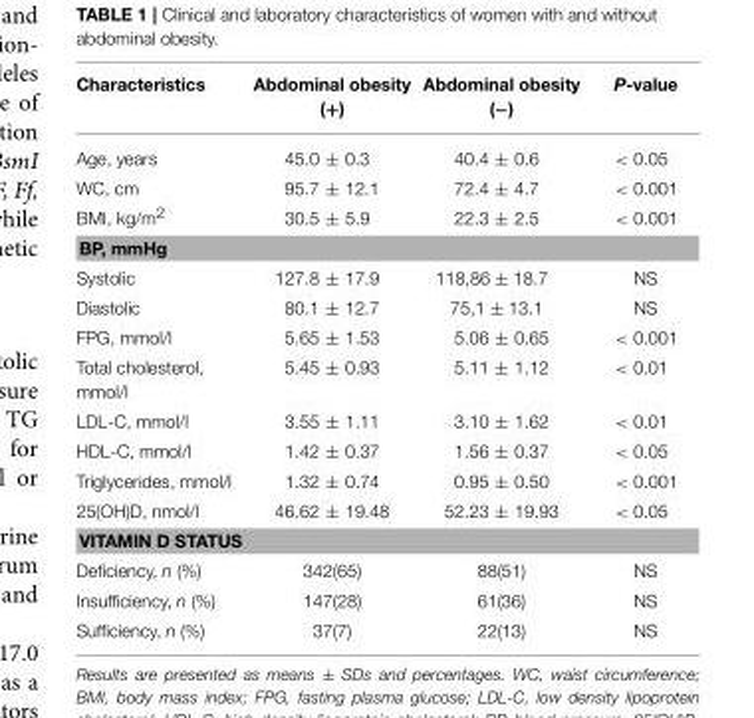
<table><thead><tr><td>Characteristics</td><td>Abdominal obesity (+)</td><td>Abdominal obesity (−)</td><td>P-value</td></tr></thead><tbody><tr><td>Age, years</td><td>45.0 ± 0.3</td><td>40.4 ± 0.6</td><td>&lt; 0.05</td></tr><tr><td>WC, cm</td><td>95.7 ± 12.1</td><td>72.4 ± 4.7</td><td>&lt; 0.001</td></tr><tr><td>BMI, kg/m<sup>2</sup></td><td>30.5 ± 5.9</td><td>22.3 ± 2.5</td><td>&lt; 0.001</td></tr><tr><td colspan="4">BP, mmHg</td></tr><tr><td>Systolic</td><td>127.8 ± 17.9</td><td>118,86 ± 18.7</td><td>NS</td></tr><tr><td>Diastolic</td><td>80.1 ± 12.7</td><td>75,1 ± 13.1</td><td>NS</td></tr><tr><td>FPG, mmol/l</td><td>5.65 ± 1.53</td><td>5.06 ± 0.65</td><td>&lt; 0.001</td></tr><tr><td>Total cholesterol, mmol/l</td><td>5.45 ± 0.93</td><td>5.11 ± 1.12</td><td>&lt; 0.01</td></tr><tr><td>LDL-C, mmol/l</td><td>3.55 ± 1.11</td><td>3.10 ± 1.62</td><td>&lt; 0.01</td></tr><tr><td>HDL-C, mmol/l</td><td>1.42 ± 0.37</td><td>1.56 ± 0.37</td><td>&lt; 0.05</td></tr><tr><td>Triglycerides, mmol/l</td><td>1.32 ± 0.74</td><td>0.95 ± 0.50</td><td>&lt; 0.001</td></tr><tr><td>25(OH)D, nmol/l</td><td>46.62 ± 19.48</td><td>52.23 ± 19.93</td><td>&lt; 0.05</td></tr><tr><td colspan="4">VITAMIN D STATUS</td></tr><tr><td>Deficiency, n (%)</td><td>342(65)</td><td>88(51)</td><td>NS</td></tr><tr><td>Insufficiency, n (%)</td><td>147(28)</td><td>61(36)</td><td>NS</td></tr><tr><td>Sufficiency, n (%)</td><td>37(7)</td><td>22(13)</td><td>NS</td></tr></tbody></table>